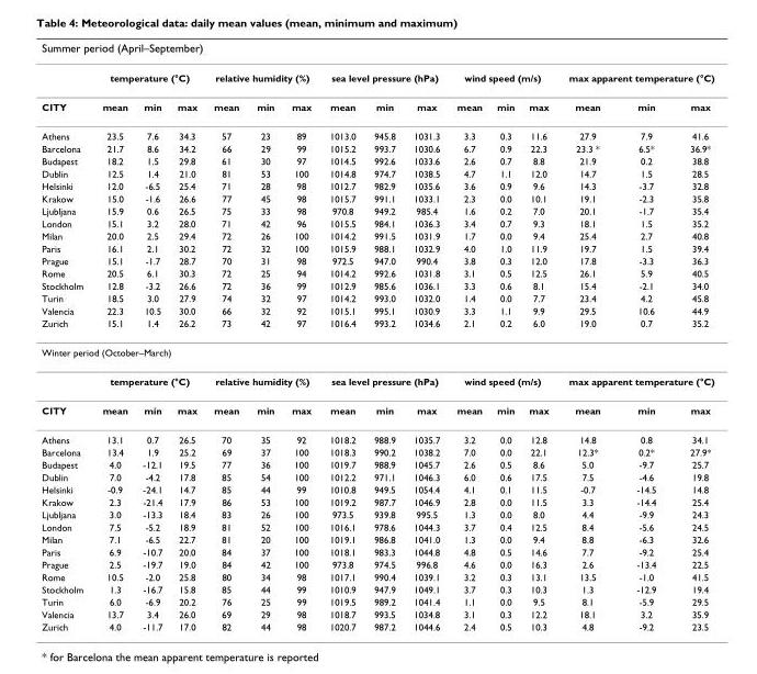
<table><thead><tr><td colspan="16">Summer period (April–September)</td></tr><tr><td rowspan="2">CITY</td><td colspan="3">temperature (°C)</td><td colspan="3">relative humidity (%)</td><td colspan="3">sea level pressure (hPa)</td><td colspan="3">wind speed (m/s)</td><td colspan="3">max apparent temperature (°C)</td></tr><tr><td>mean</td><td>min</td><td>max</td><td>mean</td><td>min</td><td>max</td><td>mean</td><td>min</td><td>max</td><td>mean</td><td>min</td><td>max</td><td>mean</td><td>min</td><td>max</td></tr></thead><tbody><tr><td>Athens</td><td>23.5</td><td>7.6</td><td>34.3</td><td>57</td><td>23</td><td>89</td><td>1013.0</td><td>945.8</td><td>1031.3</td><td>3.3</td><td>0.3</td><td>11.6</td><td>27.9</td><td>7.9</td><td>41.6</td></tr><tr><td>Barcelona</td><td>21.7</td><td>8.6</td><td>34.2</td><td>66</td><td>29</td><td>99</td><td>1015.2</td><td>993.7</td><td>1030.6</td><td>6.7</td><td>0.9</td><td>22.3</td><td>23.3 *</td><td>6.5*</td><td>36.9*</td></tr><tr><td>Budapest</td><td>18.2</td><td>1.5</td><td>29.8</td><td>61</td><td>30</td><td>97</td><td>1014.5</td><td>992.6</td><td>1033.6</td><td>2.6</td><td>0.7</td><td>8.8</td><td>21.9</td><td>0.2</td><td>38.8</td></tr><tr><td>Dublin</td><td>12.5</td><td>1.4</td><td>21.0</td><td>81</td><td>53</td><td>100</td><td>1014.8</td><td>974.7</td><td>1038.5</td><td>4.7</td><td>1.1</td><td>12.0</td><td>14.7</td><td>1.5</td><td>28.5</td></tr><tr><td>Helsinki</td><td>12.0</td><td>-6.5</td><td>25.4</td><td>71</td><td>28</td><td>98</td><td>1012.7</td><td>982.9</td><td>1035.6</td><td>3.6</td><td>0.9</td><td>9.6</td><td>14.3</td><td>-3.7</td><td>32.8</td></tr><tr><td>Krakow</td><td>15.0</td><td>-1.6</td><td>26.6</td><td>77</td><td>45</td><td>98</td><td>1015.7</td><td>991.1</td><td>1033.1</td><td>2.3</td><td>0.0</td><td>10.1</td><td>19.1</td><td>-2.3</td><td>35.8</td></tr><tr><td>Ljubljana</td><td>15.9</td><td>0.6</td><td>26.5</td><td>75</td><td>33</td><td>98</td><td>970.8</td><td>949.2</td><td>985.4</td><td>1.6</td><td>0.2</td><td>7.0</td><td>20.1</td><td>-1.7</td><td>35.4</td></tr><tr><td>London</td><td>15.1</td><td>3.2</td><td>28.0</td><td>71</td><td>42</td><td>96</td><td>1015.5</td><td>984.1</td><td>1036.3</td><td>3.4</td><td>0.7</td><td>9.3</td><td>18.1</td><td>1.5</td><td>35.2</td></tr><tr><td>Milan</td><td>20.0</td><td>2.5</td><td>29.4</td><td>72</td><td>26</td><td>100</td><td>1014.2</td><td>991.5</td><td>1031.9</td><td>1.7</td><td>0.0</td><td>9.4</td><td>25.4</td><td>2.7</td><td>40.8</td></tr><tr><td>Paris</td><td>16.1</td><td>2.1</td><td>30.2</td><td>72</td><td>32</td><td>100</td><td>1015.9</td><td>988.1</td><td>1032.9</td><td>4.0</td><td>1.0</td><td>11.9</td><td>19.7</td><td>1.5</td><td>39.4</td></tr><tr><td>Prague</td><td>15.1</td><td>-1.7</td><td>28.7</td><td>70</td><td>31</td><td>98</td><td>972.5</td><td>947.0</td><td>990.4</td><td>3.8</td><td>0.3</td><td>12.0</td><td>17.8</td><td>-3.3</td><td>36.3</td></tr><tr><td>Rome</td><td>20.5</td><td>6.1</td><td>30.3</td><td>72</td><td>25</td><td>94</td><td>1014.2</td><td>992.6</td><td>1031.8</td><td>3.1</td><td>0.5</td><td>12.5</td><td>26.1</td><td>5.9</td><td>40.5</td></tr><tr><td>Stockholm</td><td>12.8</td><td>-3.2</td><td>26.6</td><td>72</td><td>36</td><td>99</td><td>1012.9</td><td>985.6</td><td>1036.1</td><td>3.3</td><td>0.6</td><td>8.1</td><td>15.4</td><td>-2.1</td><td>34.0</td></tr><tr><td>Turin</td><td>18.5</td><td>3.0</td><td>27.9</td><td>74</td><td>32</td><td>97</td><td>1014.2</td><td>993.0</td><td>1032.0</td><td>1.4</td><td>0.0</td><td>7.7</td><td>23.4</td><td>4.2</td><td>45.8</td></tr><tr><td>Valencia</td><td>22.3</td><td>10.5</td><td>30.0</td><td>66</td><td>32</td><td>92</td><td>1015.1</td><td>995.1</td><td>1030.9</td><td>3.3</td><td>1.1</td><td>9.9</td><td>29.5</td><td>10.6</td><td>44.9</td></tr><tr><td>Zurich</td><td>15.1</td><td>1.4</td><td>26.2</td><td>73</td><td>42</td><td>97</td><td>1016.4</td><td>993.2</td><td>1034.6</td><td>2.1</td><td>0.2</td><td>6.0</td><td>19.0</td><td>0.7</td><td>35.2</td></tr><tr><td colspan="16">Winter period (October–March)</td></tr><tr><td></td><td colspan="3">temperature (°C)</td><td colspan="3">relative humidity (%)</td><td colspan="3">sea level pressure (hPa)</td><td colspan="3">wind speed (m/s)</td><td colspan="3">max apparent temperature (°C)</td></tr><tr><td>CITY</td><td>mean</td><td>min</td><td>max</td><td>mean</td><td>min</td><td>max</td><td>mean</td><td>min</td><td>max</td><td>mean</td><td>min</td><td>max</td><td>mean</td><td>min</td><td>max</td></tr><tr><td>Athens</td><td>13.1</td><td>0.7</td><td>26.5</td><td>70</td><td>35</td><td>92</td><td>1018.2</td><td>988.9</td><td>1035.7</td><td>3.2</td><td>0.0</td><td>12.8</td><td>14.8</td><td>0.8</td><td>34.1</td></tr><tr><td>Barcelona</td><td>13.4</td><td>1.9</td><td>25.2</td><td>69</td><td>37</td><td>100</td><td>1018.3</td><td>990.2</td><td>1038.2</td><td>7.0</td><td>0.0</td><td>22.1</td><td>12.3*</td><td>0.2*</td><td>27.9*</td></tr><tr><td>Budapest</td><td>4.0</td><td>-12.1</td><td>19.5</td><td>77</td><td>36</td><td>100</td><td>1019.7</td><td>988.9</td><td>1045.7</td><td>2.6</td><td>0.5</td><td>8.6</td><td>5.0</td><td>-9.7</td><td>25.7</td></tr><tr><td>Dublin</td><td>7.0</td><td>-4.2</td><td>17.8</td><td>85</td><td>54</td><td>100</td><td>1012.2</td><td>971.1</td><td>1046.3</td><td>6.0</td><td>0.6</td><td>17.5</td><td>7.5</td><td>-4.6</td><td>19.8</td></tr><tr><td>Helsinki</td><td>-0.9</td><td>-24.1</td><td>14.7</td><td>85</td><td>44</td><td>99</td><td>1010.8</td><td>949.5</td><td>1054.4</td><td>4.1</td><td>0.1</td><td>11.5</td><td>-0.7</td><td>-14.5</td><td>14.8</td></tr><tr><td>Krakow</td><td>2.3</td><td>-21.4</td><td>17.9</td><td>86</td><td>53</td><td>100</td><td>1019.2</td><td>987.7</td><td>1046.9</td><td>2.8</td><td>0.0</td><td>11.5</td><td>3.3</td><td>-14.4</td><td>25.4</td></tr><tr><td>Ljubljana</td><td>3.0</td><td>-13.3</td><td>18.4</td><td>83</td><td>26</td><td>100</td><td>973.5</td><td>939.8</td><td>995.5</td><td>1.3</td><td>0.0</td><td>8.0</td><td>4.4</td><td>-9.9</td><td>24.3</td></tr><tr><td>London</td><td>7.5</td><td>-5.2</td><td>18.9</td><td>81</td><td>52</td><td>100</td><td>1016.1</td><td>978.6</td><td>1044.3</td><td>3.7</td><td>0.4</td><td>12.5</td><td>8.4</td><td>-5.6</td><td>24.5</td></tr><tr><td>Milan</td><td>7.1</td><td>-6.5</td><td>22.7</td><td>81</td><td>20</td><td>100</td><td>1019.1</td><td>986.8</td><td>1041.0</td><td>1.3</td><td>0.0</td><td>9.4</td><td>8.8</td><td>-6.3</td><td>32.6</td></tr><tr><td>Paris</td><td>6.9</td><td>-10.7</td><td>20.0</td><td>84</td><td>37</td><td>100</td><td>1018.1</td><td>983.3</td><td>1044.8</td><td>4.8</td><td>0.5</td><td>14.6</td><td>7.7</td><td>-9.2</td><td>25.4</td></tr><tr><td>Prague</td><td>2.5</td><td>-19.7</td><td>19.0</td><td>84</td><td>42</td><td>100</td><td>973.8</td><td>974.5</td><td>996.8</td><td>4.6</td><td>0.0</td><td>16.3</td><td>2.6</td><td>-13.4</td><td>22.5</td></tr><tr><td>Rome</td><td>10.5</td><td>-2.0</td><td>25.8</td><td>80</td><td>34</td><td>98</td><td>1017.1</td><td>990.4</td><td>1039.1</td><td>3.2</td><td>0.3</td><td>13.1</td><td>13.5</td><td>-1.0</td><td>41.5</td></tr><tr><td>Stockholm</td><td>1.3</td><td>-16.7</td><td>15.8</td><td>85</td><td>44</td><td>99</td><td>1010.9</td><td>947.9</td><td>1049.1</td><td>3.7</td><td>0.3</td><td>10.3</td><td>1.3</td><td>-12.9</td><td>19.4</td></tr><tr><td>Turin</td><td>6.0</td><td>-6.9</td><td>20.2</td><td>76</td><td>25</td><td>99</td><td>1019.5</td><td>989.2</td><td>1041.4</td><td>1.1</td><td>0.0</td><td>9.5</td><td>8.1</td><td>-5.9</td><td>29.5</td></tr><tr><td>Valencia</td><td>13.7</td><td>3.4</td><td>26.0</td><td>69</td><td>29</td><td>98</td><td>1018.7</td><td>993.5</td><td>1034.8</td><td>3.1</td><td>0.3</td><td>12.2</td><td>18.1</td><td>3.2</td><td>35.9</td></tr><tr><td>Zurich</td><td>4.0</td><td>-11.7</td><td>17.0</td><td>82</td><td>44</td><td>98</td><td>1020.7</td><td>987.2</td><td>1044.6</td><td>2.4</td><td>0.5</td><td>10.3</td><td>4.8</td><td>-9.2</td><td>23.5</td></tr></tbody></table>